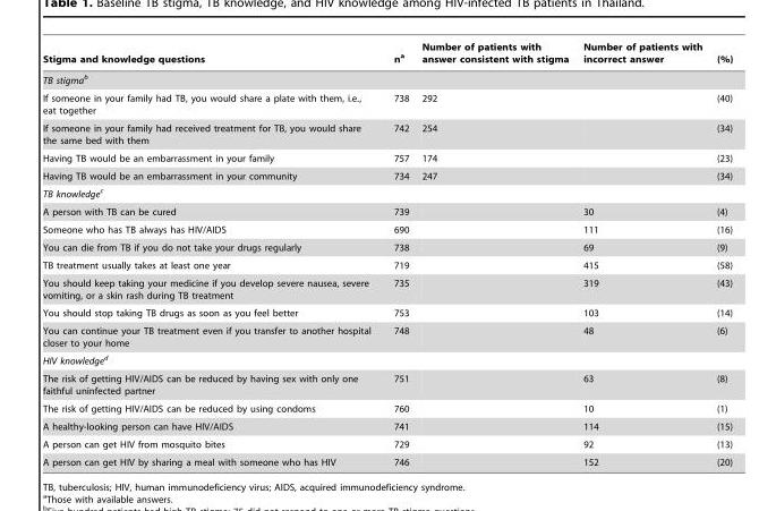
<table><thead><tr><td>Stigma and knowledge questions</td><td>n<sup>a</sup></td><td>Number of patients with answer consistent with stigma</td><td>Number of patients with incorrect answer</td><td>(%)</td></tr></thead><tbody><tr><td colspan="5">TB stigmab</td></tr><tr><td>If someone in your family had TB, you would share a plate with them, i.e., eat together</td><td>738</td><td>292</td><td></td><td>(40)</td></tr><tr><td>If someone in your family had received treatment for TB, you would share the same bed with them</td><td>742</td><td>254</td><td></td><td>(34)</td></tr><tr><td>Having TB would be an embarrassment in your family</td><td>757</td><td>174</td><td></td><td>(23)</td></tr><tr><td>Having TB would be an embarrassment in your community</td><td>734</td><td>247</td><td></td><td>(34)</td></tr><tr><td colspan="5">TB knowledgec</td></tr><tr><td>A person with TB can be cured</td><td>739</td><td></td><td>30</td><td>(4)</td></tr><tr><td>Someone who has TB always has HIV/AIDS</td><td>690</td><td></td><td>111</td><td>(16)</td></tr><tr><td>You can die from TB if you do not take your drugs regularly</td><td>738</td><td></td><td>69</td><td>(9)</td></tr><tr><td>TB treatment usually takes at least one year</td><td>719</td><td></td><td>415</td><td>(58)</td></tr><tr><td>You should keep taking your medicine if you develop severe nausea, severe vomiting, or a skin rash during TB treatment</td><td>735</td><td></td><td>319</td><td>(43)</td></tr><tr><td>You should stop taking TB drugs as soon as you feel better</td><td>753</td><td></td><td>103</td><td>(14)</td></tr><tr><td>You can continue your TB treatment even if you transfer to another hospital closer to your home</td><td>748</td><td></td><td>48</td><td>(6)</td></tr><tr><td colspan="5">HIV knowledged</td></tr><tr><td>The risk of getting HIV/AIDS can be reduced by having sex with only one faithful uninfected partner</td><td>751</td><td></td><td>63</td><td>(8)</td></tr><tr><td>The risk of getting HIV/AIDS can be reduced by using condoms</td><td>760</td><td></td><td>10</td><td>(1)</td></tr><tr><td>A healthy-looking person can have HIV/AIDS</td><td>741</td><td></td><td>114</td><td>(15)</td></tr><tr><td>A person can get HIV from mosquito bites</td><td>729</td><td></td><td>92</td><td>(13)</td></tr><tr><td>A person can get HIV by sharing a meal with someone who has HIV</td><td>746</td><td></td><td>152</td><td>(20)</td></tr></tbody></table>